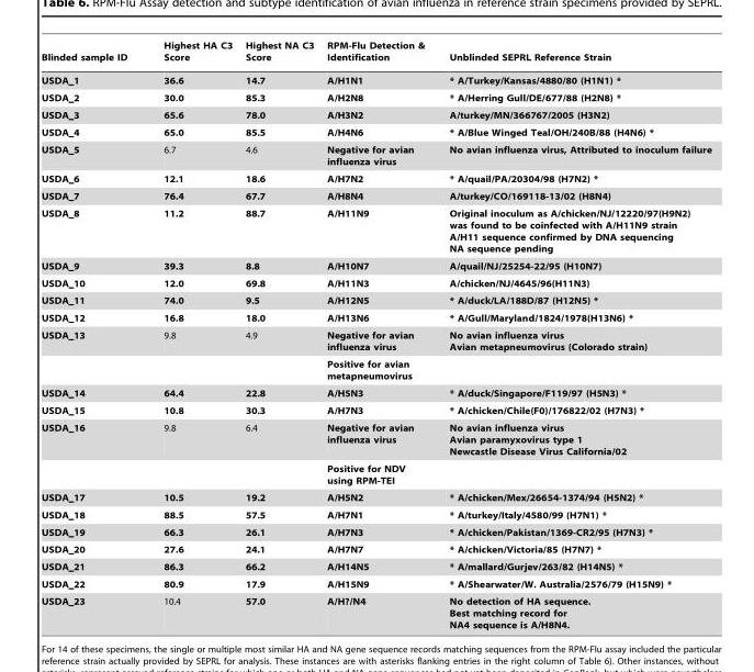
<table><thead><tr><td>Blinded sample ID</td><td>Highest HA C3 Score</td><td>Highest NA C3 Score</td><td>RPM-Flu Detection &amp; Identification</td><td>Unblinded SEPRL Reference Strain</td></tr></thead><tbody><tr><td>USDA__1</td><td>36.6</td><td>14.7</td><td>A/H1N1</td><td>* A/Turkey/Kansas/4880/80 (H1N1) *</td></tr><tr><td>USDA__2</td><td>30.0</td><td>85.3</td><td>A/H2N8</td><td>* A/Herring Gull/DE/677/88 (H2N8) *</td></tr><tr><td>USDA__3</td><td>65.6</td><td>78.0</td><td>A/H3N2</td><td>A/turkey/MN/366767/2005 (H3N2)</td></tr><tr><td>USDA__4</td><td>65.0</td><td>85.5</td><td>A/H4N6</td><td>* A/Blue Winged Teal/OH/240B/88 (H4N6) *</td></tr><tr><td>USDA__5</td><td>6.7</td><td>4.6</td><td>Negative for avian influenza virus</td><td>No avian influenza virus, Attributed to inoculum failure</td></tr><tr><td>USDA__6</td><td>12.1</td><td>18.6</td><td>A/H7N2</td><td>* A/quail/PA/20304/98 (H7N2) *</td></tr><tr><td>USDA__7</td><td>76.4</td><td>67.7</td><td>A/H8N4</td><td>A/turkey/CO/169118-13/02 (H8N4)</td></tr><tr><td>USDA__8</td><td>11.2</td><td>88.7</td><td>A/H11N9</td><td>Original inoculum as A/chicken/NJ/12220/97(H9N2) was found to be coinfected with A/H11N9 strain A/H11 sequence confirmed by DNA sequencing NA sequence pending</td></tr><tr><td>USDA__9</td><td>39.3</td><td>8.8</td><td>A/H10N7</td><td>A/quail/NJ/25254-22/95 (H10N7)</td></tr><tr><td>USDA__10</td><td>12.0</td><td>69.8</td><td>A/H11N3</td><td>A/chicken/NJ/4645/96(H11N3)</td></tr><tr><td>USDA__11</td><td>74.0</td><td>9.5</td><td>A/H12N5</td><td>* A/duck/LA/188D/87 (H12N5) *</td></tr><tr><td>USDA__12</td><td>16.8</td><td>18.0</td><td>A/H13N6</td><td>* A/Gull/Maryland/1824/1978(H13N6) *</td></tr><tr><td rowspan="2">USDA__13</td><td>9.8</td><td>4.9</td><td>Negative for avian influenza virus</td><td>No avian influenza virus Avian metapneumovirus (Colorado strain)</td></tr><tr><td></td><td></td><td>Positive for avian metapneumovirus</td><td></td></tr><tr><td>USDA__14</td><td>64.4</td><td>22.8</td><td>A/H5N3</td><td>* A/duck/Singapore/F119/97 (H5N3) *</td></tr><tr><td>USDA__15</td><td>10.8</td><td>30.3</td><td>A/H7N3</td><td>* A/chicken/Chile(F0)/176822/02 (H7N3) *</td></tr><tr><td rowspan="2">USDA__16</td><td>9.8</td><td>6.4</td><td>Negative for avian influenza virus</td><td>No avian influenza virus Avian paramyxovirus type 1 Newcastle Disease Virus California/02</td></tr><tr><td></td><td></td><td>Positive for NDV using RPM-TEI</td><td></td></tr><tr><td>USDA__17</td><td>10.5</td><td>19.2</td><td>A/H5N2</td><td>* A/chicken/Mex/26654-1374/94 (H5N2) *</td></tr><tr><td>USDA__18</td><td>88.5</td><td>57.5</td><td>A/H7N1</td><td>* A/turkey/Italy/4580/99 (H7N1) *</td></tr><tr><td>USDA__19</td><td>66.3</td><td>26.1</td><td>A/H7N3</td><td>* A/chicken/Pakistan/1369-CR2/95 (H7N3) *</td></tr><tr><td>USDA__20</td><td>27.6</td><td>24.1</td><td>A/H7N7</td><td>* A/chicken/Victoria/85 (H7N7) *</td></tr><tr><td>USDA__21</td><td>86.3</td><td>66.2</td><td>A/H14N5</td><td>* A/mallard/Gurjev/263/82 (H14N5) *</td></tr><tr><td>USDA__22</td><td>80.9</td><td>17.9</td><td>A/H15N9</td><td>* A/Shearwater/W. Australia/2576/79 (H15N9) *</td></tr><tr><td>USDA__23</td><td>10.4</td><td>57.0</td><td>A/H?/N4</td><td>No detection of HA sequence. Best matching record for NA4 sequence is A/H8N4.</td></tr></tbody></table>